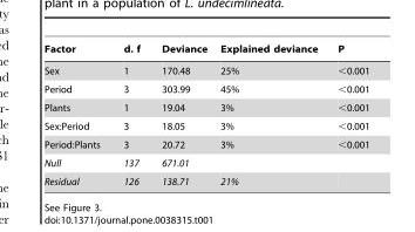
<table><thead><tr><td>Factor</td><td>d. f</td><td>Deviance</td><td>Explained deviance</td><td>P</td></tr></thead><tbody><tr><td>Sex</td><td>1</td><td>170.48</td><td>25%</td><td>&lt;0.001</td></tr><tr><td>Period</td><td>3</td><td>303.99</td><td>45%</td><td>&lt;0.001</td></tr><tr><td>Plants</td><td>1</td><td>19.04</td><td>3%</td><td>&lt;0.001</td></tr><tr><td>Sex:Period</td><td>3</td><td>18.05</td><td>3%</td><td>&lt;0.001</td></tr><tr><td>Period:Plants</td><td>3</td><td>20.72</td><td>3%</td><td>&lt;0.001</td></tr><tr><td>Null</td><td>137</td><td>671.01</td><td></td><td></td></tr><tr><td>Residual</td><td>126</td><td>138.71</td><td>21%</td><td></td></tr></tbody></table>